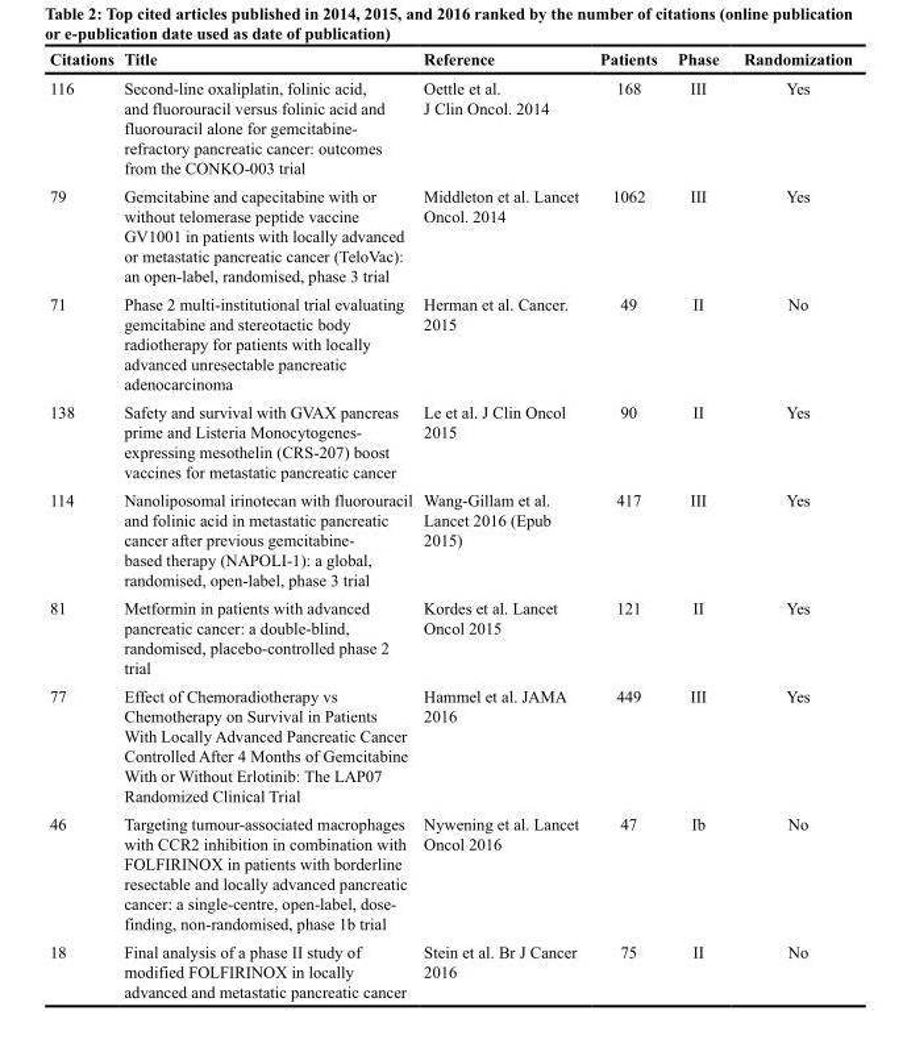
<table><thead><tr><td>Citations</td><td>Title</td><td>Reference</td><td>Patients</td><td>Phase</td><td>Randomization</td></tr></thead><tbody><tr><td>116</td><td>Second-line oxaliplatin, folinic acid, and fluorouracil versus folinic acid and fluorouracil alone for gemcitabine- refractory pancreatic cancer: outcomes from the CONKO-003 trial</td><td>Oettle et al. J Clin Oncol. 2014</td><td>168</td><td>III</td><td>Yes</td></tr><tr><td>79</td><td>Gemcitabine and capecitabine with or without telomerase peptide vaccine GV1001 in patients with locally advanced or metastatic pancreatic cancer (TeloVac): an open-label, randomised, phase 3 trial</td><td>Middleton et al. Lancet Oncol. 2014</td><td>1062</td><td>III</td><td>Yes</td></tr><tr><td>71</td><td>Phase 2 multi-institutional trial evaluating gemcitabine and stereotactic body radiotherapy for patients with locally advanced unresectable pancreatic adenocarcinoma</td><td>Herman et al. Cancer. 2015</td><td>49</td><td>II</td><td>No</td></tr><tr><td>138</td><td>Safety and survival with GVAX pancreas prime and Listeria Monocytogenes- expressing mesothelin (CRS-207) boost vaccines for metastatic pancreatic cancer</td><td>Le et al. J Clin Oncol 2015</td><td>90</td><td>II</td><td>Yes</td></tr><tr><td>114</td><td>Nanoliposomal irinotecan with fluorouracil and folinic acid in metastatic pancreatic cancer after previous gemcitabine- based therapy (NAPOLI-1): a global, randomised, open-label, phase 3 trial</td><td>Wang-Gillam et al. Lancet 2016 (Epub 2015)</td><td>417</td><td>III</td><td>Yes</td></tr><tr><td>81</td><td>Metformin in patients with advanced pancreatic cancer: a double-blind, randomised, placebo-controlled phase 2 trial</td><td>Kordes et al. Lancet Oncol 2015</td><td>121</td><td>II</td><td>Yes</td></tr><tr><td>77</td><td>Effect of Chemoradiotherapy vs Chemotherapy on Survival in Patients With Locally Advanced Pancreatic Cancer Controlled After 4 Months of Gemcitabine With or Without Erlotinib: The LAP07 Randomized Clinical Trial</td><td>Hammel et al. JAMA 2016</td><td>449</td><td>III</td><td>Yes</td></tr><tr><td>46</td><td>Targeting tumour-associated macrophages with CCR2 inhibition in combination with FOLFIRINOX in patients with borderline resectable and locally advanced pancreatic cancer: a single-centre, open-label, dose- finding, non-randomised, phase 1b trial</td><td>Nywening et al. Lancet Oncol 2016</td><td>47</td><td>Ib</td><td>No</td></tr><tr><td>18</td><td>Final analysis of a phase II study of modified FOLFIRINOX in locally advanced and metastatic pancreatic cancer</td><td>Stein et al. Br J Cancer 2016</td><td>75</td><td>II</td><td>No</td></tr></tbody></table>